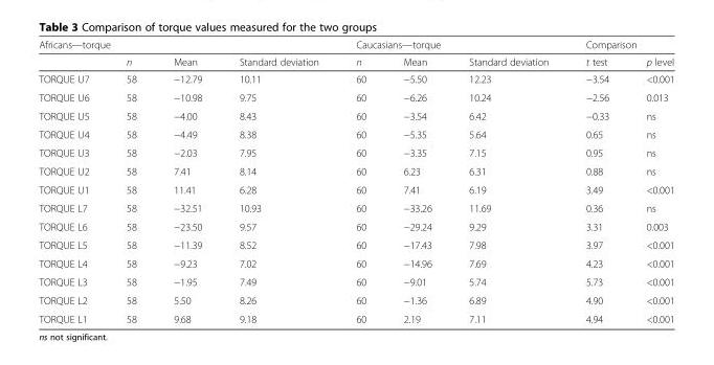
<table><thead><tr><td colspan="4">Africans—torque</td><td colspan="3">Caucasians—torque</td><td colspan="2">Comparison</td></tr><tr><td></td><td>n</td><td>Mean</td><td>Standard deviation</td><td>n</td><td>Mean</td><td>Standard deviation</td><td>t test</td><td>p level</td></tr></thead><tbody><tr><td>TORQUE U7</td><td>58</td><td>−12.79</td><td>10.11</td><td>60</td><td>−5.50</td><td>12.23</td><td>−3.54</td><td>&lt;0.001</td></tr><tr><td>TORQUE U6</td><td>58</td><td>−10.98</td><td>9.75</td><td>60</td><td>−6.26</td><td>10.24</td><td>−2.56</td><td>0.013</td></tr><tr><td>TORQUE U5</td><td>58</td><td>−4.00</td><td>8.43</td><td>60</td><td>−3.54</td><td>6.42</td><td>−0.33</td><td>ns</td></tr><tr><td>TORQUE U4</td><td>58</td><td>−4.49</td><td>8.38</td><td>60</td><td>−5.35</td><td>5.64</td><td>0.65</td><td>ns</td></tr><tr><td>TORQUE U3</td><td>58</td><td>−2.03</td><td>7.95</td><td>60</td><td>−3.35</td><td>7.15</td><td>0.95</td><td>ns</td></tr><tr><td>TORQUE U2</td><td>58</td><td>7.41</td><td>8.14</td><td>60</td><td>6.23</td><td>6.31</td><td>0.88</td><td>ns</td></tr><tr><td>TORQUE U1</td><td>58</td><td>11.41</td><td>6.28</td><td>60</td><td>7.41</td><td>6.19</td><td>3.49</td><td>&lt;0.001</td></tr><tr><td>TORQUE L7</td><td>58</td><td>−32.51</td><td>10.93</td><td>60</td><td>−33.26</td><td>11.69</td><td>0.36</td><td>ns</td></tr><tr><td>TORQUE L6</td><td>58</td><td>−23.50</td><td>9.57</td><td>60</td><td>−29.24</td><td>9.29</td><td>3.31</td><td>0.003</td></tr><tr><td>TORQUE L5</td><td>58</td><td>−11.39</td><td>8.52</td><td>60</td><td>−17.43</td><td>7.98</td><td>3.97</td><td>&lt;0.001</td></tr><tr><td>TORQUE L4</td><td>58</td><td>−9.23</td><td>7.02</td><td>60</td><td>−14.96</td><td>7.69</td><td>4.23</td><td>&lt;0.001</td></tr><tr><td>TORQUE L3</td><td>58</td><td>−1.95</td><td>7.49</td><td>60</td><td>−9.01</td><td>5.74</td><td>5.73</td><td>&lt;0.001</td></tr><tr><td>TORQUE L2</td><td>58</td><td>5.50</td><td>8.26</td><td>60</td><td>−1.36</td><td>6.89</td><td>4.90</td><td>&lt;0.001</td></tr><tr><td>TORQUE L1</td><td>58</td><td>9.68</td><td>9.18</td><td>60</td><td>2.19</td><td>7.11</td><td>4.94</td><td>&lt;0.001</td></tr></tbody></table>